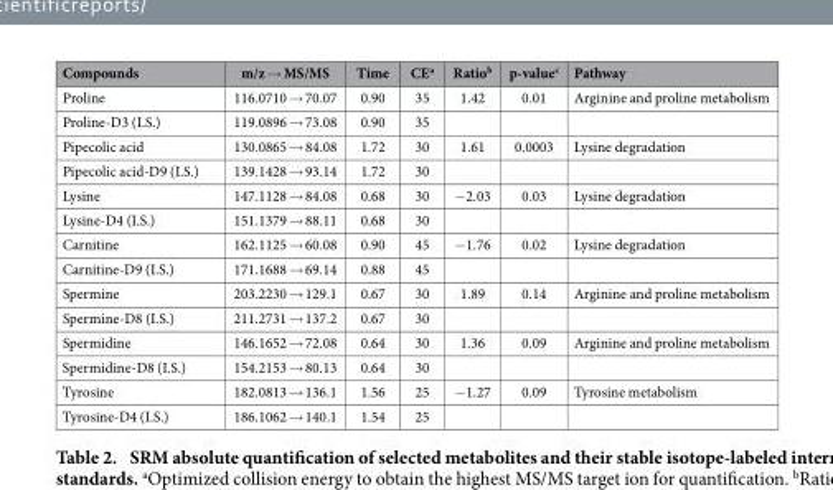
<table><thead><tr><td>Compounds</td><td>m/z → MS/MS</td><td>Time</td><td>CE<sup>a</sup></td><td>Ratio<sup>b</sup></td><td>p-value<sup>c</sup></td><td>Pathway</td></tr></thead><tbody><tr><td>Proline</td><td>116.0710 → 70.07</td><td>0.90</td><td>35</td><td>1.42</td><td>0.01</td><td>Arginine and proline metabolism</td></tr><tr><td>Proline-D3 (I.S.)</td><td>119.0896 → 73.08</td><td>0.90</td><td>35</td><td></td><td></td><td></td></tr><tr><td>Pipecolic acid</td><td>130.0865 → 84.08</td><td>1.72</td><td>30</td><td>1.61</td><td>0.0003</td><td>Lysine degradation</td></tr><tr><td>Pipecolic acid-D9 (I.S.)</td><td>139.1428 → 93.14</td><td>1.72</td><td>30</td><td></td><td></td><td></td></tr><tr><td>Lysine</td><td>147.1128 → 84.08</td><td>0.68</td><td>30</td><td>− 2.03</td><td>0.03</td><td>Lysine degradation</td></tr><tr><td>Lysine-D4 (I.S.)</td><td>151.1379 → 88.11</td><td>0.68</td><td>30</td><td></td><td></td><td></td></tr><tr><td>Carnitine</td><td>162.1125 → 60.08</td><td>0.90</td><td>45</td><td>− 1.76</td><td>0.02</td><td>Lysine degradation</td></tr><tr><td>Carnitine-D9 (I.S.)</td><td>171.1688 → 69.14</td><td>0.88</td><td>45</td><td></td><td></td><td></td></tr><tr><td>Spermine</td><td>203.2230 → 129.1</td><td>0.67</td><td>30</td><td>1.89</td><td>0.14</td><td>Arginine and proline metabolism</td></tr><tr><td>Spermine-D8 (I.S.)</td><td>211.2731 → 137.2</td><td>0.67</td><td>30</td><td></td><td></td><td></td></tr><tr><td>Spermidine</td><td>146.1652 → 72.08</td><td>0.64</td><td>30</td><td>1.36</td><td>0.09</td><td>Arginine and proline metabolism</td></tr><tr><td>Spermidine-D8 (I.S.)</td><td>154.2153 → 80.13</td><td>0.64</td><td>30</td><td></td><td></td><td></td></tr><tr><td>Tyrosine</td><td>182.0813 → 136.1</td><td>1.56</td><td>25</td><td>− 1.27</td><td>0.09</td><td>Tyrosine metabolism</td></tr><tr><td>Tyrosine-D4 (I.S.)</td><td>186.1062 → 140.1</td><td>1.54</td><td>25</td><td></td><td></td><td></td></tr></tbody></table>